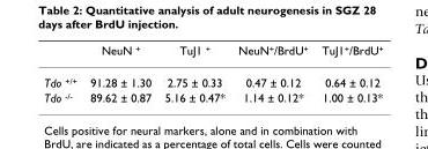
<table><thead><tr><td></td><td>NeuN <sup>+</sup></td><td>TuJ1 <sup>+</sup></td><td>NeuN<sup>+</sup>/BrdU<sup>+</sup></td><td>TuJ1<sup>+</sup>/BrdU<sup>+</sup></td></tr></thead><tbody><tr><td>Tdo <sup>+/+</sup></td><td>91.28 ± 1.30</td><td>2.75 ± 0.33</td><td>0.47 ± 0.12</td><td>0.64 ± 0.12</td></tr><tr><td>Tdo <sup>-/-</sup></td><td>89.62 ± 0.87</td><td>5.16 ± 0.47*</td><td>1.14 ± 0.12*</td><td>1.00 ± 0.13*</td></tr></tbody></table>